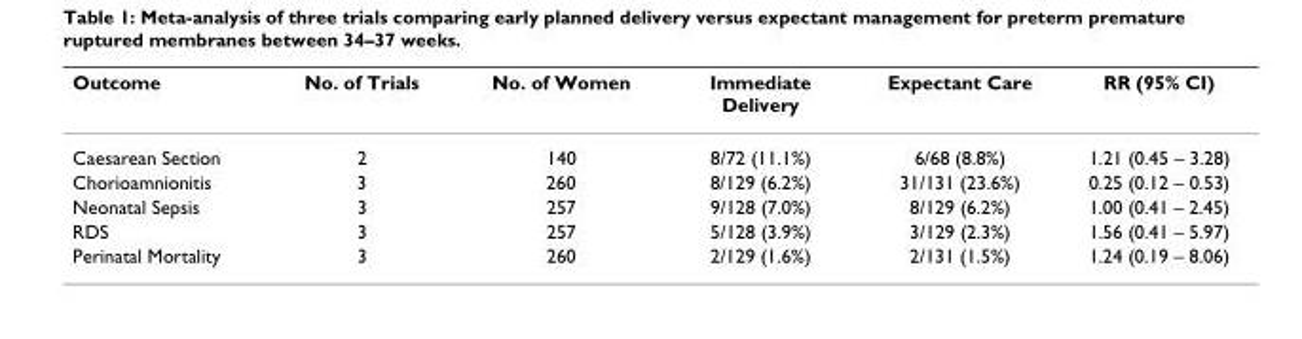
<table><thead><tr><td>Outcome</td><td>No. of Trials</td><td>No. of Women</td><td>Immediate Delivery</td><td>Expectant Care</td><td>RR (95% CI)</td></tr></thead><tbody><tr><td>Caesarean Section</td><td>2</td><td>140</td><td>8/72 (11.1%)</td><td>6/68 (8.8%)</td><td>1.21 (0.45 – 3.28)</td></tr><tr><td>Chorioamnionitis</td><td>3</td><td>260</td><td>8/129 (6.2%)</td><td>31/131 (23.6%)</td><td>0.25 (0.12 – 0.53)</td></tr><tr><td>Neonatal Sepsis</td><td>3</td><td>257</td><td>9/128 (7.0%)</td><td>8/129 (6.2%)</td><td>1.00 (0.41 – 2.45)</td></tr><tr><td>RDS</td><td>3</td><td>257</td><td>5/128 (3.9%)</td><td>3/129 (2.3%)</td><td>1.56 (0.41 – 5.97)</td></tr><tr><td>Perinatal Mortality</td><td>3</td><td>260</td><td>2/129 (1.6%)</td><td>2/131 (1.5%)</td><td>1.24 (0.19 – 8.06)</td></tr></tbody></table>